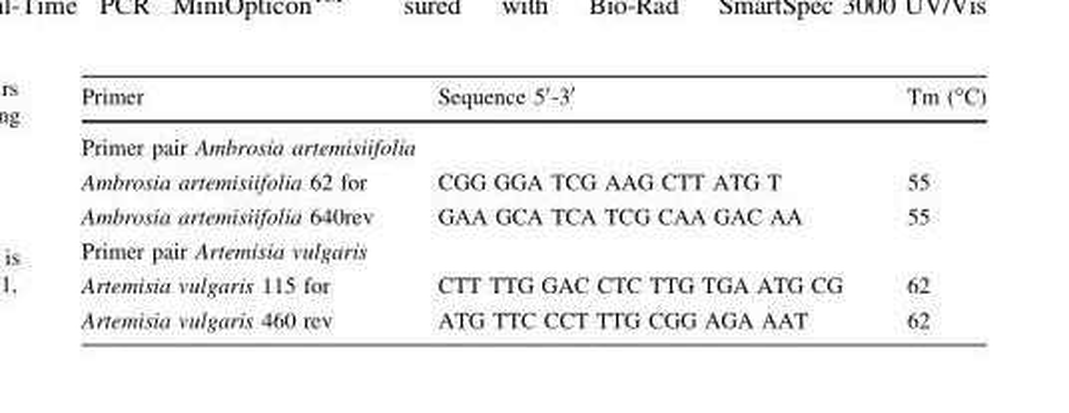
<table><thead><tr><td>Primer</td><td>Sequence 5′-3′</td><td>Tm (°C)</td></tr></thead><tbody><tr><td colspan="3">Primer pair Ambrosia artemisiifolia</td></tr><tr><td>Ambrosia artemisiifolia 62 for</td><td>CGG GGA TCG AAG CTT ATG T</td><td>55</td></tr><tr><td>Ambrosia artemisiifolia 640rev</td><td>GAA GCA TCA TCG CAA GAC AA</td><td>55</td></tr><tr><td colspan="3">Primer pair Artemisia vulgaris</td></tr><tr><td>Artemisia vulgaris 115 for</td><td>CTT TTG GAC CTC TTG TGA ATG CG</td><td>62</td></tr><tr><td>Artemisia vulgaris 460 rev</td><td>ATG TTC CCT TTG CGG AGA AAT</td><td>62</td></tr></tbody></table>